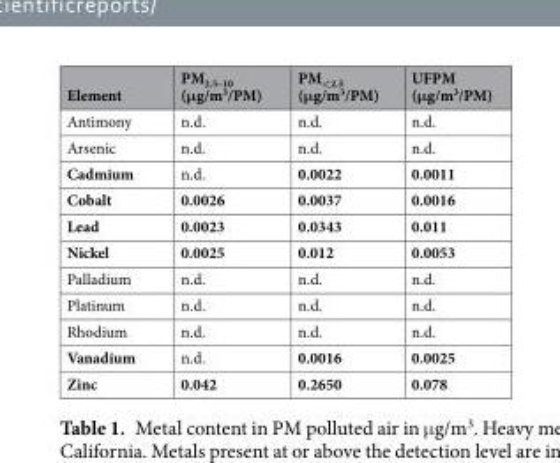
<table><thead><tr><td>Element</td><td>PM<sub>2.5–10</sub> (μg/m<sup>3</sup>/PM)</td><td>PM<sub>&lt;2.5</sub> (μg/m<sup>3</sup>/PM)</td><td>UFPM (μg/m<sup>3</sup>/PM)</td></tr></thead><tbody><tr><td>Antimony</td><td>n.d.</td><td>n.d.</td><td>n.d.</td></tr><tr><td>Arsenic</td><td>n.d.</td><td>n.d.</td><td>n.d.</td></tr><tr><td>Cadmium</td><td>n.d.</td><td>0.0022</td><td>0.0011</td></tr><tr><td>Cobalt</td><td>0.0026</td><td>0.0037</td><td>0.0016</td></tr><tr><td>Lead</td><td>0.0023</td><td>0.0343</td><td>0.011</td></tr><tr><td>Nickel</td><td>0.0025</td><td>0.012</td><td>0.0053</td></tr><tr><td>Palladium</td><td>n.d.</td><td>n.d.</td><td>n.d.</td></tr><tr><td>Platinum</td><td>n.d.</td><td>n.d.</td><td>n.d.</td></tr><tr><td>Rhodium</td><td>n.d.</td><td>n.d.</td><td>n.d.</td></tr><tr><td>Vanadium</td><td>n.d.</td><td>0.0016</td><td>0.0025</td></tr><tr><td>Zinc</td><td>0.042</td><td>0.2650</td><td>0.078</td></tr></tbody></table>